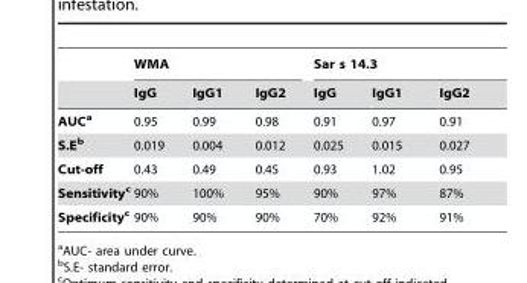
<table><thead><tr><td rowspan="2"></td><td colspan="3">WMA</td><td colspan="3">Sar s 14.3</td></tr><tr><td>IgG</td><td>IgG1</td><td>IgG2</td><td>IgG</td><td>IgG1</td><td>IgG2</td></tr></thead><tbody><tr><td>AUCa</td><td>0.95</td><td>0.99</td><td>0.98</td><td>0.91</td><td>0.97</td><td>0.91</td></tr><tr><td>S.Eb</td><td>0.019</td><td>0.004</td><td>0.012</td><td>0.025</td><td>0.015</td><td>0.027</td></tr><tr><td>Cut-off</td><td>0.43</td><td>0.49</td><td>0.45</td><td>0.93</td><td>1.02</td><td>0.95</td></tr><tr><td>Sensitivityc</td><td>90%</td><td>100%</td><td>95%</td><td>90%</td><td>97%</td><td>87%</td></tr><tr><td>Specificityc</td><td>90%</td><td>90%</td><td>90%</td><td>70%</td><td>92%</td><td>91%</td></tr></tbody></table>